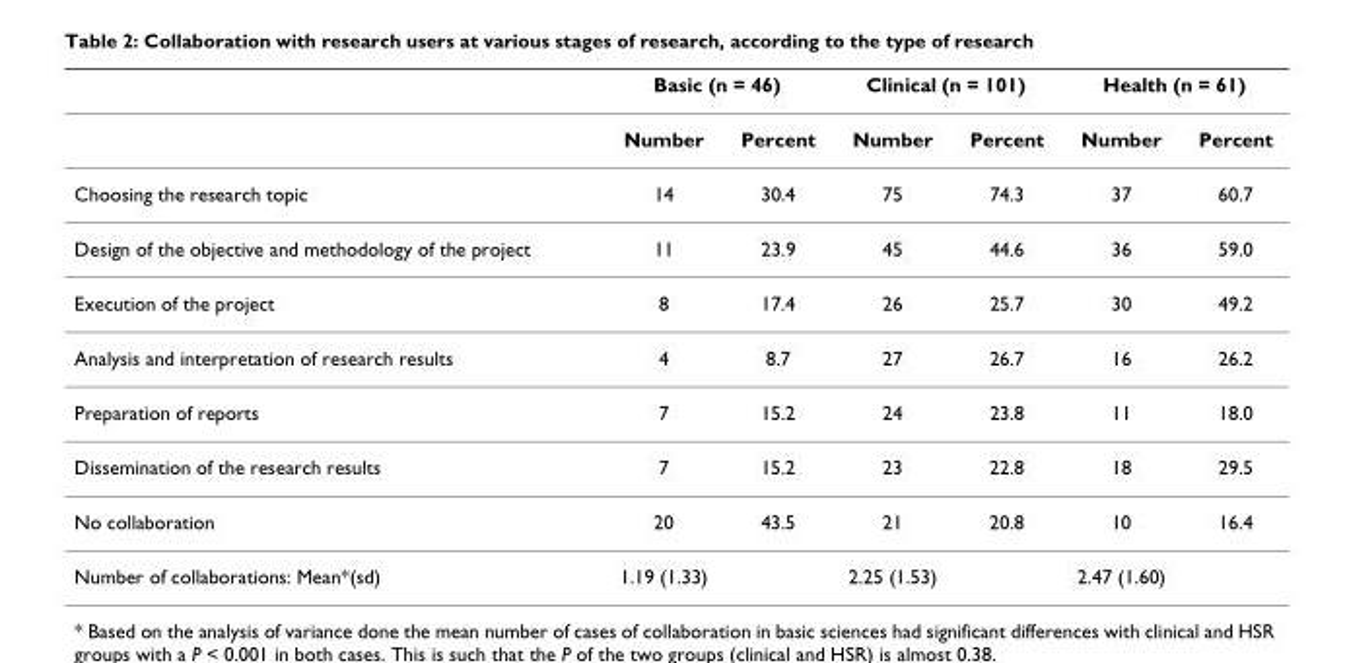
<table><thead><tr><td rowspan="2"></td><td colspan="2">Basic (n = 46)</td><td colspan="2">Clinical (n = 101)</td><td colspan="2">Health (n = 61)</td></tr><tr><td>Number</td><td>Percent</td><td>Number</td><td>Percent</td><td>Number</td><td>Percent</td></tr></thead><tbody><tr><td>Choosing the research topic</td><td>14</td><td>30.4</td><td>75</td><td>74.3</td><td>37</td><td>60.7</td></tr><tr><td>Design of the objective and methodology of the project</td><td>11</td><td>23.9</td><td>45</td><td>44.6</td><td>36</td><td>59.0</td></tr><tr><td>Execution of the project</td><td>8</td><td>17.4</td><td>26</td><td>25.7</td><td>30</td><td>49.2</td></tr><tr><td>Analysis and interpretation of research results</td><td>4</td><td>8.7</td><td>27</td><td>26.7</td><td>16</td><td>26.2</td></tr><tr><td>Preparation of reports</td><td>7</td><td>15.2</td><td>24</td><td>23.8</td><td>11</td><td>18.0</td></tr><tr><td>Dissemination of the research results</td><td>7</td><td>15.2</td><td>23</td><td>22.8</td><td>18</td><td>29.5</td></tr><tr><td>No collaboration</td><td>20</td><td>43.5</td><td>21</td><td>20.8</td><td>10</td><td>16.4</td></tr><tr><td>Number of collaborations: Mean*(sd)</td><td>1.19 (1.33)</td><td></td><td>2.25 (1.53)</td><td></td><td>2.47 (1.60)</td><td></td></tr></tbody></table>